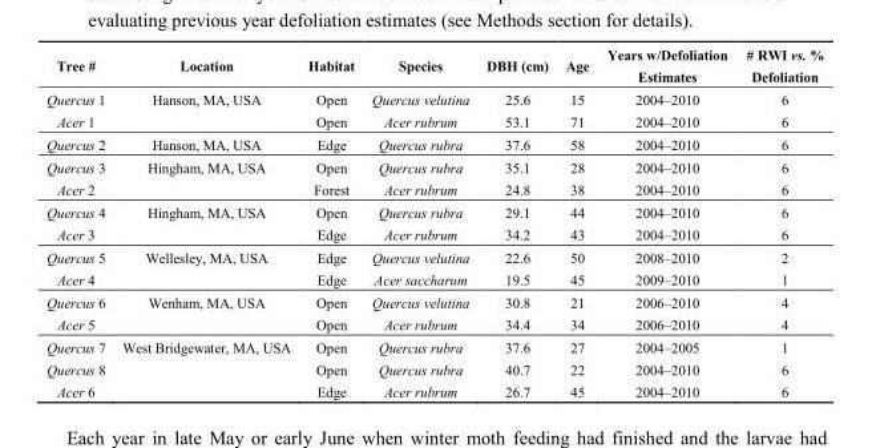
<table><thead><tr><td>Tree #</td><td>Location</td><td>Habitat</td><td>Species</td><td>DBH (cm)</td><td>Age</td><td>Years w/Defoliation Estimates</td><td># RWI vs. % Defoliation</td></tr></thead><tbody><tr><td>Quercus 1</td><td>Hanson, MA, USA</td><td>Open</td><td>Quercus velutina</td><td>25.6</td><td>15</td><td>2004–2010</td><td>6</td></tr><tr><td>Acer 1</td><td></td><td>Open</td><td>Acer rubrum</td><td>53.1</td><td>71</td><td>2004–2010</td><td>6</td></tr><tr><td>Quercus 2</td><td>Hanson, MA, USA</td><td>Edge</td><td>Quercus rubra</td><td>37.6</td><td>58</td><td>2004–2010</td><td>6</td></tr><tr><td>Quercus 3</td><td>Hingham, MA, USA</td><td>Open</td><td>Quercus rubra</td><td>35.1</td><td>28</td><td>2004–2010</td><td>6</td></tr><tr><td>Acer 2</td><td></td><td>Forest</td><td>Acer rubrum</td><td>24.8</td><td>38</td><td>2004–2010</td><td>6</td></tr><tr><td>Quercus 4</td><td>Hingham, MA, USA</td><td>Open</td><td>Quercus rubra</td><td>29.1</td><td>44</td><td>2004–2010</td><td>6</td></tr><tr><td>Acer 3</td><td></td><td>Edge</td><td>Acer rubrum</td><td>34.2</td><td>43</td><td>2004–2010</td><td>6</td></tr><tr><td>Quercus 5</td><td>Wellesley, MA, USA</td><td>Edge</td><td>Quercus velutina</td><td>22.6</td><td>50</td><td>2008–2010</td><td>2</td></tr><tr><td>Acer 4</td><td></td><td>Edge</td><td>Acer saccharum</td><td>19.5</td><td>45</td><td>2009–2010</td><td>1</td></tr><tr><td>Quercus 6</td><td>Wenham, MA, USA</td><td>Open</td><td>Quercus velutina</td><td>30.8</td><td>21</td><td>2006–2010</td><td>4</td></tr><tr><td>Acer 5</td><td></td><td>Open</td><td>Acer rubrum</td><td>34.4</td><td>34</td><td>2006–2010</td><td>4</td></tr><tr><td>Quercus 7</td><td>West Bridgewater, MA, USA</td><td>Open</td><td>Quercus rubra</td><td>37.6</td><td>27</td><td>2004–2005</td><td>1</td></tr><tr><td>Quercus 8</td><td></td><td>Open</td><td>Quercus rubra</td><td>40.7</td><td>22</td><td>2004–2010</td><td>6</td></tr><tr><td>Acer 6</td><td></td><td>Edge</td><td>Acer rubrum</td><td>26.7</td><td>45</td><td>2004–2010</td><td>6</td></tr></tbody></table>